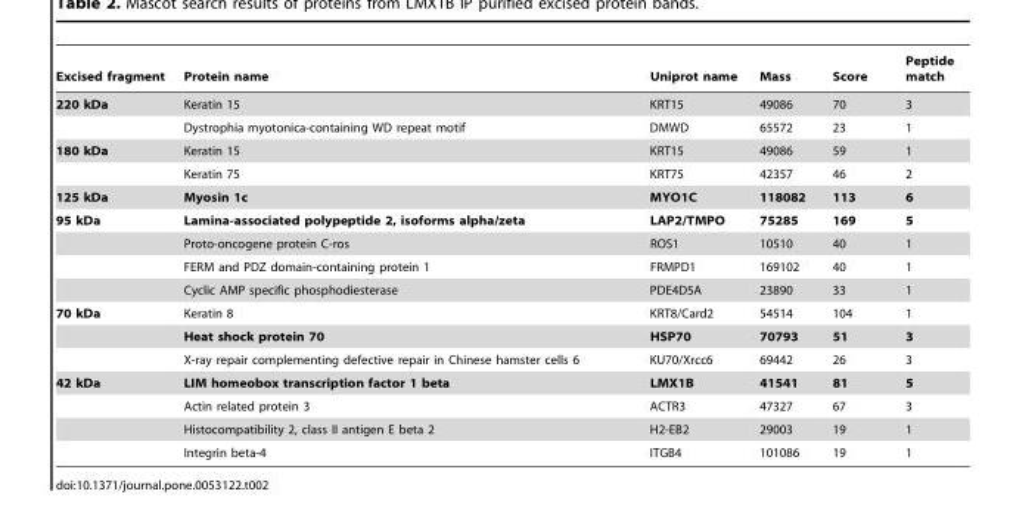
<table><thead><tr><td>Excised fragment</td><td>Protein name</td><td>Uniprot name</td><td>Mass</td><td>Score</td><td>Peptide match</td></tr></thead><tbody><tr><td rowspan="2">220 kDa</td><td>Keratin 15</td><td>KRT15</td><td>49086</td><td>70</td><td>3</td></tr><tr><td>Dystrophia myotonica-containing WD repeat motif</td><td>DMWD</td><td>65572</td><td>23</td><td>1</td></tr><tr><td rowspan="2">180 kDa</td><td>Keratin 15</td><td>KRT15</td><td>49086</td><td>59</td><td>1</td></tr><tr><td>Keratin 75</td><td>KRT75</td><td>42357</td><td>46</td><td>2</td></tr><tr><td>125 kDa</td><td>Myosin 1c</td><td>MYO1C</td><td>118082</td><td>113</td><td>6</td></tr><tr><td rowspan="4">95 kDa</td><td>Lamina-associated polypeptide 2, isoforms alpha/zeta</td><td>LAP2/TMPO</td><td>75285</td><td>169</td><td>5</td></tr><tr><td>Proto-oncogene protein C-ros</td><td>ROS1</td><td>10510</td><td>40</td><td>1</td></tr><tr><td>FERM and PDZ domain-containing protein 1</td><td>FRMPD1</td><td>169102</td><td>40</td><td>1</td></tr><tr><td>Cyclic AMP specific phosphodiesterase</td><td>PDE4D5A</td><td>23890</td><td>33</td><td>1</td></tr><tr><td rowspan="3">70 kDa</td><td>Keratin 8</td><td>KRT8/Card2</td><td>54514</td><td>104</td><td>1</td></tr><tr><td>Heat shock protein 70</td><td>HSP70</td><td>70793</td><td>51</td><td>3</td></tr><tr><td>X-ray repair complementing defective repair in Chinese hamster cells 6</td><td>KU70/Xrcc6</td><td>69442</td><td>26</td><td>3</td></tr><tr><td rowspan="4">42 kDa</td><td>LIM homeobox transcription factor 1 beta</td><td>LMX1B</td><td>41541</td><td>81</td><td>5</td></tr><tr><td>Actin related protein 3</td><td>ACTR3</td><td>47327</td><td>67</td><td>3</td></tr><tr><td>Histocompatibility 2, class II antigen E beta 2</td><td>H2-EB2</td><td>29003</td><td>19</td><td>1</td></tr><tr><td>Integrin beta-4</td><td>ITGB4</td><td>101086</td><td>19</td><td>1</td></tr></tbody></table>